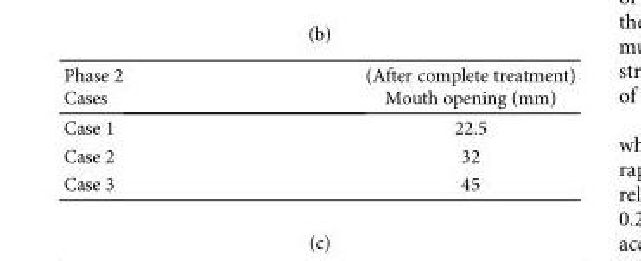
<table><thead><tr><td rowspan="2">Phase 2 Cases</td><td rowspan="2">(After complete treatment) Mouth opening (mm)</td></tr><tr></tr></thead><tbody><tr><td>Case 1</td><td>22.5</td></tr><tr><td>Case 2</td><td>32</td></tr><tr><td>Case 3</td><td>45</td></tr></tbody></table>